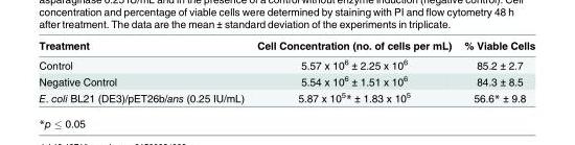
<table><thead><tr><td>Treatment</td><td>Cell Concentration (no. of cells per mL)</td><td>% Viable Cells</td></tr></thead><tbody><tr><td>Control</td><td>5.57 x 10<sup>6</sup> ± 2.25 x 10<sup>6</sup></td><td>85.2 ± 2.7</td></tr><tr><td>Negative Control</td><td>5.54 x 10<sup>6</sup> ± 1.51 x 10<sup>6</sup></td><td>84.3 ± 8.5</td></tr><tr><td>E. coli BL21 (DE3)/pET26b/ans (0.25 IU/mL)</td><td>5.87 x 10<sup>5</sup>* ± 1.83 x 10<sup>5</sup></td><td>56.6* ± 9.8</td></tr></tbody></table>